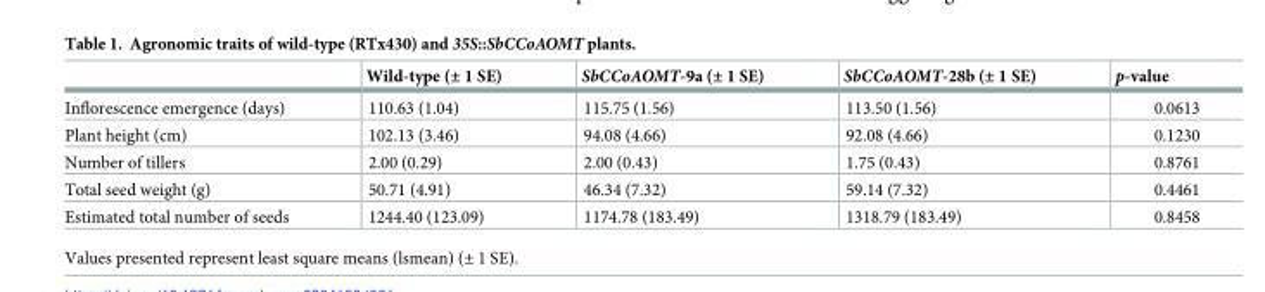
<table><thead><tr><td></td><td>Wild-type (± 1 SE)</td><td>SbCCoAOMT-9a (± 1 SE)</td><td>SbCCoAOMT-28b (± 1 SE)</td><td>p-value</td></tr></thead><tbody><tr><td>Inflorescence emergence (days)</td><td>110.63 (1.04)</td><td>115.75 (1.56)</td><td>113.50 (1.56)</td><td>0.0613</td></tr><tr><td>Plant height (cm)</td><td>102.13 (3.46)</td><td>94.08 (4.66)</td><td>92.08 (4.66)</td><td>0.1230</td></tr><tr><td>Number of tillers</td><td>2.00 (0.29)</td><td>2.00 (0.43)</td><td>1.75 (0.43)</td><td>0.8761</td></tr><tr><td>Total seed weight (g)</td><td>50.71 (4.91)</td><td>46.34 (7.32)</td><td>59.14 (7.32)</td><td>0.4461</td></tr><tr><td>Estimated total number of seeds</td><td>1244.40 (123.09)</td><td>1174.78 (183.49)</td><td>1318.79 (183.49)</td><td>0.8458</td></tr></tbody></table>